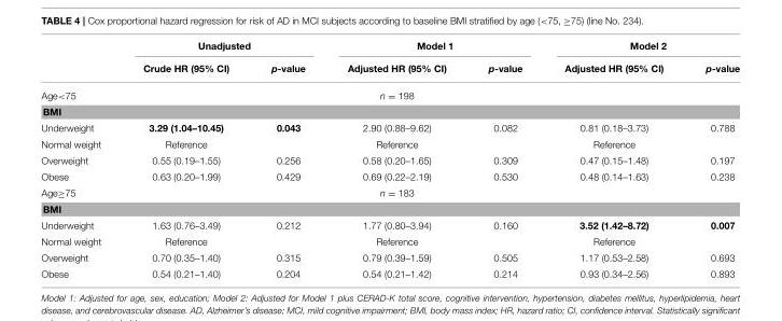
<table><thead><tr><td rowspan="2"></td><td colspan="2">Unadjusted</td><td colspan="2">Model 1</td><td colspan="2">Model 2</td></tr><tr><td>Crude HR (95% CI)</td><td>p-value</td><td>Adjusted HR (95% CI)</td><td>p-value</td><td>Adjusted HR (95% CI)</td><td>p-value</td></tr></thead><tbody><tr><td>Age&lt;75</td><td></td><td></td><td>n = 198</td><td></td><td></td><td></td></tr><tr><td colspan="7">BMI</td></tr><tr><td>Underweight</td><td>3.29 (1.04–10.45)</td><td>0.043</td><td>2.90 (0.88–9.62)</td><td>0.082</td><td>0.81 (0.18–3.73)</td><td>0.788</td></tr><tr><td>Normal weight</td><td>Reference</td><td></td><td>Reference</td><td></td><td>Reference</td><td></td></tr><tr><td>Overweight</td><td>0.55 (0.19–1.55)</td><td>0.256</td><td>0.58 (0.20–1.65)</td><td>0.309</td><td>0.47 (0.15–1.48)</td><td>0.197</td></tr><tr><td>Obese</td><td>0.63 (0.20–1.99)</td><td>0.429</td><td>0.69 (0.22–2.19)</td><td>0.530</td><td>0.48 (0.14–1.63)</td><td>0.238</td></tr><tr><td>Age≥75</td><td></td><td></td><td>n = 183</td><td></td><td></td><td></td></tr><tr><td colspan="7">BMI</td></tr><tr><td>Underweight</td><td>1.63 (0.76–3.49)</td><td>0.212</td><td>1.77 (0.80–3.94)</td><td>0.160</td><td>3.52 (1.42–8.72)</td><td>0.007</td></tr><tr><td>Normal weight</td><td>Reference</td><td></td><td>Reference</td><td></td><td>Reference</td><td></td></tr><tr><td>Overweight</td><td>0.70 (0.35–1.40)</td><td>0.315</td><td>0.79 (0.39–1.59)</td><td>0.505</td><td>1.17 (0.53–2.58)</td><td>0.693</td></tr><tr><td>Obese</td><td>0.54 (0.21–1.40)</td><td>0.204</td><td>0.54 (0.21–1.42)</td><td>0.214</td><td>0.93 (0.34–2.56)</td><td>0.893</td></tr></tbody></table>